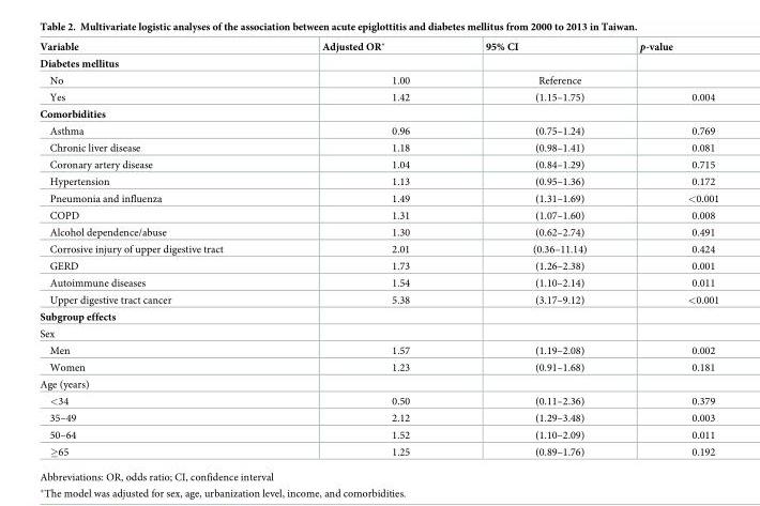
<table><thead><tr><td>Variable</td><td>Adjusted OR*</td><td>95% CI</td><td>p-value</td></tr></thead><tbody><tr><td colspan="4">Diabetes mellitus</td></tr><tr><td>No</td><td>1.00</td><td>Reference</td><td></td></tr><tr><td>Yes</td><td>1.42</td><td>(1.15–1.75)</td><td>0.004</td></tr><tr><td colspan="4">Comorbidities</td></tr><tr><td>Asthma</td><td>0.96</td><td>(0.75–1.24)</td><td>0.769</td></tr><tr><td>Chronic liver disease</td><td>1.18</td><td>(0.98–1.41)</td><td>0.081</td></tr><tr><td>Coronary artery disease</td><td>1.04</td><td>(0.84–1.29)</td><td>0.715</td></tr><tr><td>Hypertension</td><td>1.13</td><td>(0.95–1.36)</td><td>0.172</td></tr><tr><td>Pneumonia and influenza</td><td>1.49</td><td>(1.31–1.69)</td><td>&lt;0.001</td></tr><tr><td>COPD</td><td>1.31</td><td>(1.07–1.60)</td><td>0.008</td></tr><tr><td>Alcohol dependence/abuse</td><td>1.30</td><td>(0.62–2.74)</td><td>0.491</td></tr><tr><td>Corrosive injury of upper digestive tract</td><td>2.01</td><td>(0.36–11.14)</td><td>0.424</td></tr><tr><td>GERD</td><td>1.73</td><td>(1.26–2.38)</td><td>0.001</td></tr><tr><td>Autoimmune diseases</td><td>1.54</td><td>(1.10–2.14)</td><td>0.011</td></tr><tr><td>Upper digestive tract cancer</td><td>5.38</td><td>(3.17–9.12)</td><td>&lt;0.001</td></tr><tr><td colspan="4">Subgroup effects</td></tr><tr><td colspan="4">Sex</td></tr><tr><td>Men</td><td>1.57</td><td>(1.19–2.08)</td><td>0.002</td></tr><tr><td>Women</td><td>1.23</td><td>(0.91–1.68)</td><td>0.181</td></tr><tr><td colspan="4">Age (years)</td></tr><tr><td>&lt;34</td><td>0.50</td><td>(0.11–2.36)</td><td>0.379</td></tr><tr><td>35–49</td><td>2.12</td><td>(1.29–3.48)</td><td>0.003</td></tr><tr><td>50–64</td><td>1.52</td><td>(1.10–2.09)</td><td>0.011</td></tr><tr><td>≥65</td><td>1.25</td><td>(0.89–1.76)</td><td>0.192</td></tr></tbody></table>